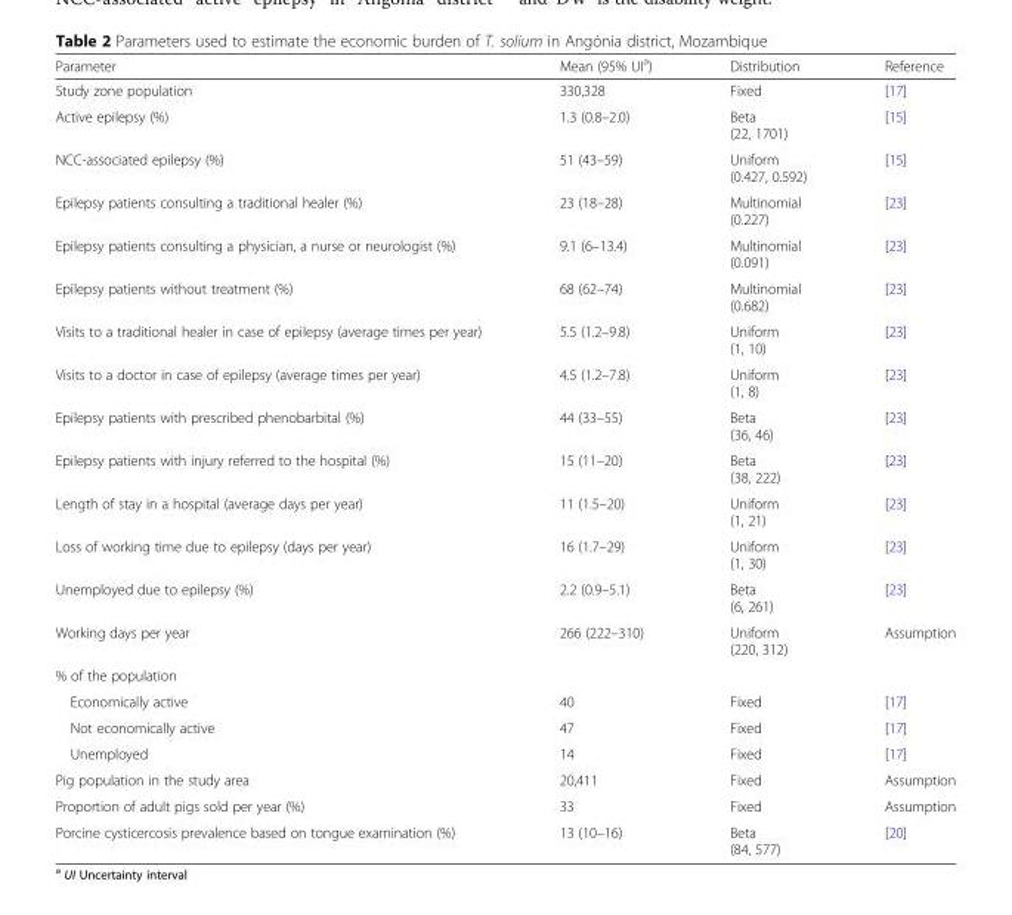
<table><thead><tr><td>Parameter</td><td>Mean (95% UI<sup>a</sup>)</td><td>Distribution</td><td>Reference</td></tr></thead><tbody><tr><td>Study zone population</td><td>330,328</td><td>Fixed</td><td>[17]</td></tr><tr><td>Active epilepsy (%)</td><td>1.3 (0.8–2.0)</td><td>Beta (22, 1701)</td><td>[15]</td></tr><tr><td>NCC-associated epilepsy (%)</td><td>51 (43–59)</td><td>Uniform (0.427, 0.592)</td><td>[15]</td></tr><tr><td>Epilepsy patients consulting a traditional healer (%)</td><td>23 (18–28)</td><td>Multinomial (0.227)</td><td>[23]</td></tr><tr><td>Epilepsy patients consulting a physician, a nurse or neurologist (%)</td><td>9.1 (6–13.4)</td><td>Multinomial (0.091)</td><td>[23]</td></tr><tr><td>Epilepsy patients without treatment (%)</td><td>68 (62–74)</td><td>Multinomial (0.682)</td><td>[23]</td></tr><tr><td>Visits to a traditional healer in case of epilepsy (average times per year)</td><td>5.5 (1.2–9.8)</td><td>Uniform (1, 10)</td><td>[23]</td></tr><tr><td>Visits to a doctor in case of epilepsy (average times per year)</td><td>4.5 (1.2–7.8)</td><td>Uniform (1, 8)</td><td>[23]</td></tr><tr><td>Epilepsy patients with prescribed phenobarbital (%)</td><td>44 (33–55)</td><td>Beta (36, 46)</td><td>[23]</td></tr><tr><td>Epilepsy patients with injury referred to the hospital (%)</td><td>15 (11–20)</td><td>Beta (38, 222)</td><td>[23]</td></tr><tr><td>Length of stay in a hospital (average days per year)</td><td>11 (1.5–20)</td><td>Uniform (1, 21)</td><td>[23]</td></tr><tr><td>Loss of working time due to epilepsy (days per year)</td><td>16 (1.7–29)</td><td>Uniform (1, 30)</td><td>[23]</td></tr><tr><td>Unemployed due to epilepsy (%)</td><td>2.2 (0.9–5.1)</td><td>Beta (6, 261)</td><td>[23]</td></tr><tr><td>Working days per year</td><td>266 (222–310)</td><td>Uniform (220, 312)</td><td>Assumption</td></tr><tr><td colspan="4">% of the population</td></tr><tr><td>Economically active</td><td>40</td><td>Fixed</td><td>[17]</td></tr><tr><td>Not economically active</td><td>47</td><td>Fixed</td><td>[17]</td></tr><tr><td>Unemployed</td><td>14</td><td>Fixed</td><td>[17]</td></tr><tr><td>Pig population in the study area</td><td>20,411</td><td>Fixed</td><td>Assumption</td></tr><tr><td>Proportion of adult pigs sold per year (%)</td><td>33</td><td>Fixed</td><td>Assumption</td></tr><tr><td>Porcine cysticercosis prevalence based on tongue examination (%)</td><td>13 (10–16)</td><td>Beta (84, 577)</td><td>[20]</td></tr></tbody></table>